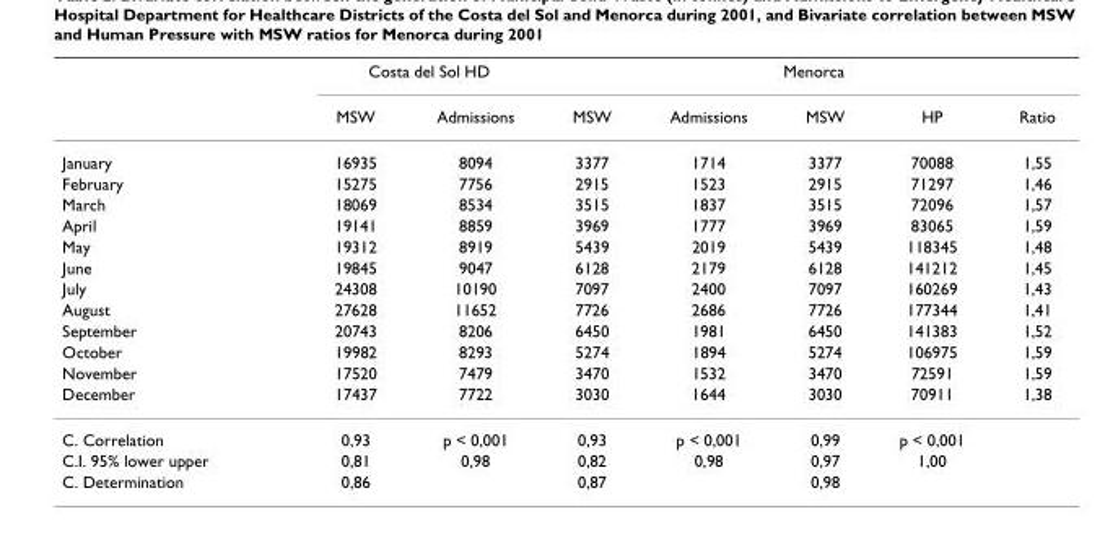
<table><thead><tr><td rowspan="2"></td><td colspan="2">Costa del Sol HD</td><td colspan="5">Menorca</td></tr><tr><td>MSW</td><td>Admissions</td><td>MSW</td><td>Admissions</td><td>MSW</td><td>HP</td><td>Ratio</td></tr></thead><tbody><tr><td>January</td><td>16935</td><td>8094</td><td>3377</td><td>1714</td><td>3377</td><td>70088</td><td>1,55</td></tr><tr><td>February</td><td>15275</td><td>7756</td><td>2915</td><td>1523</td><td>2915</td><td>71297</td><td>1,46</td></tr><tr><td>March</td><td>18069</td><td>8534</td><td>3515</td><td>1837</td><td>3515</td><td>72096</td><td>1,57</td></tr><tr><td>April</td><td>19141</td><td>8859</td><td>3969</td><td>1777</td><td>3969</td><td>83065</td><td>1,59</td></tr><tr><td>May</td><td>19312</td><td>8919</td><td>5439</td><td>2019</td><td>5439</td><td>118345</td><td>1,48</td></tr><tr><td>June</td><td>19845</td><td>9047</td><td>6128</td><td>2179</td><td>6128</td><td>141212</td><td>1,45</td></tr><tr><td>July</td><td>24308</td><td>10190</td><td>7097</td><td>2400</td><td>7097</td><td>160269</td><td>1,43</td></tr><tr><td>August</td><td>27628</td><td>11652</td><td>7726</td><td>2686</td><td>7726</td><td>177344</td><td>1,41</td></tr><tr><td>September</td><td>20743</td><td>8206</td><td>6450</td><td>1981</td><td>6450</td><td>141383</td><td>1,52</td></tr><tr><td>October</td><td>19982</td><td>8293</td><td>5274</td><td>1894</td><td>5274</td><td>106975</td><td>1,59</td></tr><tr><td>November</td><td>17520</td><td>7479</td><td>3470</td><td>1532</td><td>3470</td><td>72591</td><td>1,59</td></tr><tr><td>December</td><td>17437</td><td>7722</td><td>3030</td><td>1644</td><td>3030</td><td>70911</td><td>1,38</td></tr><tr><td>C. Correlation</td><td>0,93</td><td>p &lt; 0,001</td><td>0,93</td><td>p &lt; 0,001</td><td>0,99</td><td>p &lt; 0,001</td><td></td></tr><tr><td>C.I. 95% lower upper</td><td>0,81</td><td>0,98</td><td>0,82</td><td>0,98</td><td>0,97</td><td>1,00</td><td></td></tr><tr><td>C. Determination</td><td>0,86</td><td></td><td>0,87</td><td></td><td>0,98</td><td></td><td></td></tr></tbody></table>